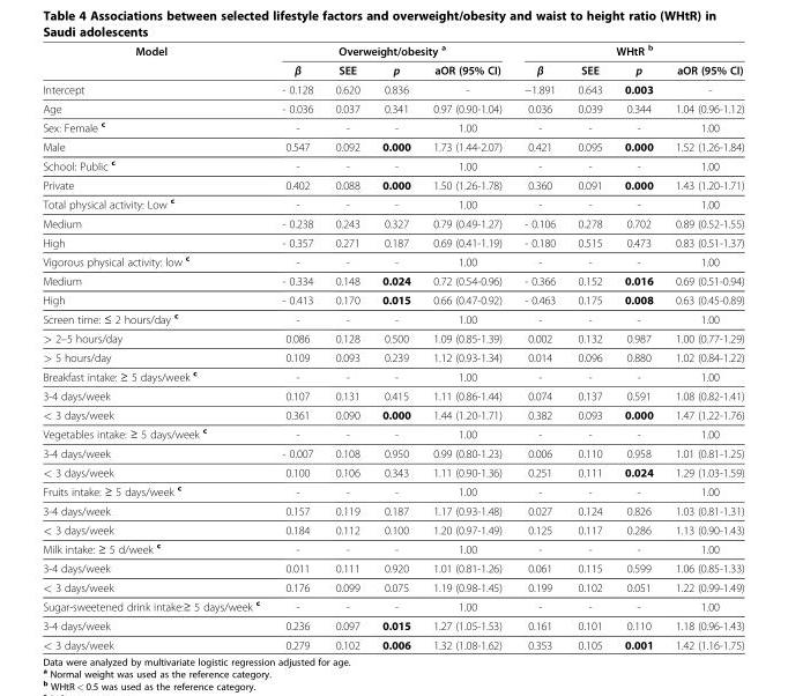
<table><thead><tr><td rowspan="2">Model</td><td colspan="4">Overweight/obesity <sup>a</sup></td><td colspan="4">WHtR <sup>b</sup></td></tr><tr><td>β</td><td>SEE</td><td>p</td><td>aOR (95% CI)</td><td>β</td><td>SEE</td><td>p</td><td>aOR (95% CI)</td></tr></thead><tbody><tr><td>Intercept</td><td>- 0.128</td><td>0.620</td><td>0.836</td><td>-</td><td>−1.891</td><td>0.643</td><td>0.003</td><td>-</td></tr><tr><td>Age</td><td>- 0.036</td><td>0.037</td><td>0.341</td><td>0.97 (0.90-1.04)</td><td>0.036</td><td>0.039</td><td>0.344</td><td>1.04 (0.96-1.12)</td></tr><tr><td>Sex: Female <sup>c</sup></td><td>-</td><td>-</td><td>-</td><td>1.00</td><td>-</td><td>-</td><td>-</td><td>1.00</td></tr><tr><td>Male</td><td>0.547</td><td>0.092</td><td>0.000</td><td>1.73 (1.44-2.07)</td><td>0.421</td><td>0.095</td><td>0.000</td><td>1.52 (1.26-1.84)</td></tr><tr><td>School: Public <sup>c</sup></td><td>-</td><td>-</td><td>-</td><td>1.00</td><td>-</td><td>-</td><td>-</td><td>1.00</td></tr><tr><td>Private</td><td>0.402</td><td>0.088</td><td>0.000</td><td>1.50 (1.26-1.78)</td><td>0.360</td><td>0.091</td><td>0.000</td><td>1.43 (1.20-1.71)</td></tr><tr><td>Total physical activity: Low <sup>c</sup></td><td>-</td><td>-</td><td>-</td><td>1.00</td><td>-</td><td>-</td><td>-</td><td>1.00</td></tr><tr><td>Medium</td><td>- 0.238</td><td>0.243</td><td>0.327</td><td>0.79 (0.49-1.27)</td><td>- 0.106</td><td>0.278</td><td>0.702</td><td>0.89 (0.52-1.55)</td></tr><tr><td>High</td><td>- 0.357</td><td>0.271</td><td>0.187</td><td>0.69 (0.41-1.19)</td><td>- 0.180</td><td>0.515</td><td>0.473</td><td>0.83 (0.51-1.37)</td></tr><tr><td>Vigorous physical activity: low <sup>c</sup></td><td>-</td><td>-</td><td>-</td><td>1.00</td><td>-</td><td>-</td><td>-</td><td>1.00</td></tr><tr><td>Medium</td><td>- 0.334</td><td>0.148</td><td>0.024</td><td>0.72 (0.54-0.96)</td><td>- 0.366</td><td>0.152</td><td>0.016</td><td>0.69 (0.51-0.94)</td></tr><tr><td>High</td><td>- 0.413</td><td>0.170</td><td>0.015</td><td>0.66 (0.47-0.92)</td><td>- 0.463</td><td>0.175</td><td>0.008</td><td>0.63 (0.45-0.89)</td></tr><tr><td>Screen time: ≤ 2 hours/day <sup>c</sup></td><td>-</td><td>-</td><td>-</td><td>1.00</td><td>-</td><td>-</td><td>-</td><td>1.00</td></tr><tr><td>&gt; 2–5 hours/day</td><td>0.086</td><td>0.128</td><td>0.500</td><td>1.09 (0.85-1.39)</td><td>0.002</td><td>0.132</td><td>0.987</td><td>1.00 (0.77-1.29)</td></tr><tr><td>&gt; 5 hours/day</td><td>0.109</td><td>0.093</td><td>0.239</td><td>1.12 (0.93-1.34)</td><td>0.014</td><td>0.096</td><td>0.880</td><td>1.02 (0.84-1.22)</td></tr><tr><td>Breakfast intake: ≥ 5 days/week <sup>c</sup></td><td>-</td><td>-</td><td>-</td><td>1.00</td><td>-</td><td>-</td><td>-</td><td>1.00</td></tr><tr><td>3-4 days/week</td><td>0.107</td><td>0.131</td><td>0.415</td><td>1.11 (0.86-1.44)</td><td>0.074</td><td>0.137</td><td>0.591</td><td>1.08 (0.82-1.41)</td></tr><tr><td>&lt; 3 days/week</td><td>0.361</td><td>0.090</td><td>0.000</td><td>1.44 (1.20-1.71)</td><td>0.382</td><td>0.093</td><td>0.000</td><td>1.47 (1.22-1.76)</td></tr><tr><td>Vegetables intake: ≥ 5 days/week <sup>c</sup></td><td>-</td><td>-</td><td>-</td><td>1.00</td><td>-</td><td>-</td><td>-</td><td>1.00</td></tr><tr><td>3-4 days/week</td><td>- 0.007</td><td>0.108</td><td>0.950</td><td>0.99 (0.80-1.23)</td><td>0.006</td><td>0.110</td><td>0.958</td><td>1.01 (0.81-1.25)</td></tr><tr><td>&lt; 3 days/week</td><td>0.100</td><td>0.106</td><td>0.343</td><td>1.11 (0.90-1.36)</td><td>0.251</td><td>0.111</td><td>0.024</td><td>1.29 (1.03-1.59)</td></tr><tr><td>Fruits intake: ≥ 5 days/week <sup>c</sup></td><td>-</td><td>-</td><td>-</td><td>1.00</td><td>-</td><td>-</td><td>-</td><td>1.00</td></tr><tr><td>3-4 days/week</td><td>0.157</td><td>0.119</td><td>0.187</td><td>1.17 (0.93-1.48)</td><td>0.027</td><td>0.124</td><td>0.826</td><td>1.03 (0.81-1.31)</td></tr><tr><td>&lt; 3 days/week</td><td>0.184</td><td>0.112</td><td>0.100</td><td>1.20 (0.97-1.49)</td><td>0.125</td><td>0.117</td><td>0.286</td><td>1.13 (0.90-1.43)</td></tr><tr><td>Milk intake: ≥ 5 d/week <sup>c</sup></td><td>-</td><td>-</td><td>-</td><td>1.00</td><td>-</td><td>-</td><td>-</td><td>1.00</td></tr><tr><td>3-4 days/week</td><td>0.011</td><td>0.111</td><td>0.920</td><td>1.01 (0.81-1.26)</td><td>0.061</td><td>0.115</td><td>0.599</td><td>1.06 (0.85-1.33)</td></tr><tr><td>&lt; 3 days/week</td><td>0.176</td><td>0.099</td><td>0.075</td><td>1.19 (0.98-1.45)</td><td>0.199</td><td>0.102</td><td>0.051</td><td>1.22 (0.99-1.49)</td></tr><tr><td>Sugar-sweetened drink intake:≥ 5 days/week <sup>c</sup></td><td>-</td><td>-</td><td>-</td><td>1.00</td><td>-</td><td>-</td><td>-</td><td>1.00</td></tr><tr><td>3-4 days/week</td><td>0.236</td><td>0.097</td><td>0.015</td><td>1.27 (1.05-1.53)</td><td>0.161</td><td>0.101</td><td>0.110</td><td>1.18 (0.96-1.43)</td></tr><tr><td>&lt; 3 days/week</td><td>0.279</td><td>0.102</td><td>0.006</td><td>1.32 (1.08-1.62)</td><td>0.353</td><td>0.105</td><td>0.001</td><td>1.42 (1.16-1.75)</td></tr></tbody></table>